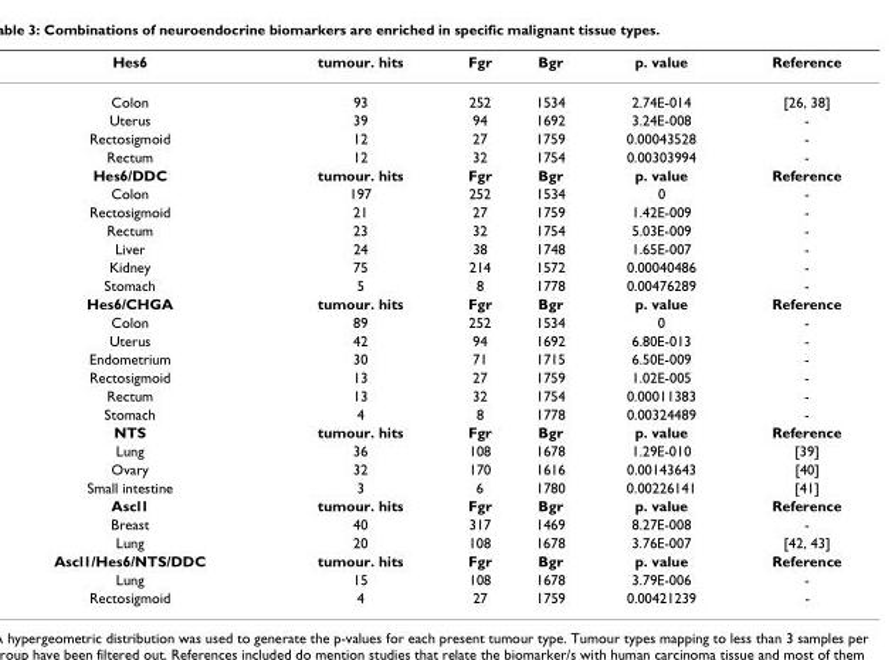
<table><thead><tr><td>Hes6</td><td>tumour. hits</td><td>Fgr</td><td>Bgr</td><td>p. value</td><td>Reference</td></tr></thead><tbody><tr><td>Colon</td><td>93</td><td>252</td><td>1534</td><td>2.74E-014</td><td>[26, 38]</td></tr><tr><td>Uterus</td><td>39</td><td>94</td><td>1692</td><td>3.24E-008</td><td>-</td></tr><tr><td>Rectosigmoid</td><td>12</td><td>27</td><td>1759</td><td>0.00043528</td><td>-</td></tr><tr><td>Rectum</td><td>12</td><td>32</td><td>1754</td><td>0.00303994</td><td>-</td></tr><tr><td>Hes6/DDC</td><td>tumour. hits</td><td>Fgr</td><td>Bgr</td><td>p. value</td><td>Reference</td></tr><tr><td>Colon</td><td>197</td><td>252</td><td>1534</td><td>0</td><td>-</td></tr><tr><td>Rectosigmoid</td><td>21</td><td>27</td><td>1759</td><td>1.42E-009</td><td>-</td></tr><tr><td>Rectum</td><td>23</td><td>32</td><td>1754</td><td>5.03E-009</td><td>-</td></tr><tr><td>Liver</td><td>24</td><td>38</td><td>1748</td><td>1.65E-007</td><td>-</td></tr><tr><td>Kidney</td><td>75</td><td>214</td><td>1572</td><td>0.00040486</td><td>-</td></tr><tr><td>Stomach</td><td>5</td><td>8</td><td>1778</td><td>0.00476289</td><td>-</td></tr><tr><td>Hes6/CHGA</td><td>tumour. hits</td><td>Fgr</td><td>Bgr</td><td>p. value</td><td>Reference</td></tr><tr><td>Colon</td><td>89</td><td>252</td><td>1534</td><td>0</td><td>-</td></tr><tr><td>Uterus</td><td>42</td><td>94</td><td>1692</td><td>6.80E-013</td><td>-</td></tr><tr><td>Endometrium</td><td>30</td><td>71</td><td>1715</td><td>6.50E-009</td><td>-</td></tr><tr><td>Rectosigmoid</td><td>13</td><td>27</td><td>1759</td><td>1.02E-005</td><td>-</td></tr><tr><td>Rectum</td><td>13</td><td>32</td><td>1754</td><td>0.00011383</td><td>-</td></tr><tr><td>Stomach</td><td>4</td><td>8</td><td>1778</td><td>0.00324489</td><td>-</td></tr><tr><td>NTS</td><td>tumour. hits</td><td>Fgr</td><td>Bgr</td><td>p. value</td><td>Reference</td></tr><tr><td>Lung</td><td>36</td><td>108</td><td>1678</td><td>1.29E-010</td><td>[39]</td></tr><tr><td>Ovary</td><td>32</td><td>170</td><td>1616</td><td>0.00143643</td><td>[40]</td></tr><tr><td>Small intestine</td><td>3</td><td>6</td><td>1780</td><td>0.00226141</td><td>[41]</td></tr><tr><td>Ascl1</td><td>tumour. hits</td><td>Fgr</td><td>Bgr</td><td>p. value</td><td>Reference</td></tr><tr><td>Breast</td><td>40</td><td>317</td><td>1469</td><td>8.27E-008</td><td>-</td></tr><tr><td>Lung</td><td>20</td><td>108</td><td>1678</td><td>3.76E-007</td><td>[42, 43]</td></tr><tr><td>Ascl1/Hes6/NTS/DDC</td><td>tumour. hits</td><td>Fgr</td><td>Bgr</td><td>p. value</td><td>Reference</td></tr><tr><td>Lung</td><td>15</td><td>108</td><td>1678</td><td>3.79E-006</td><td>-</td></tr><tr><td>Rectosigmoid</td><td>4</td><td>27</td><td>1759</td><td>0.00421239</td><td>-</td></tr></tbody></table>